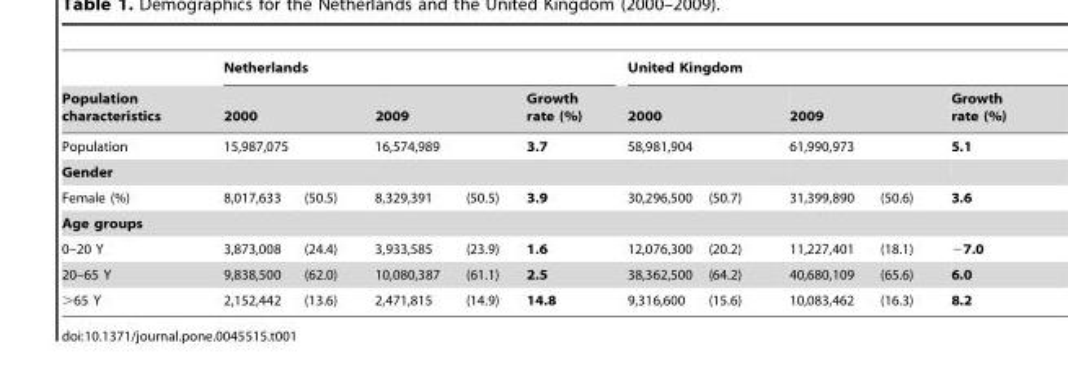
<table><thead><tr><td rowspan="5">Population characteristics Population Gender Female (%)</td><td colspan="5">Netherlands</td><td colspan="5">United Kingdom</td></tr><tr><td rowspan="3" colspan="2">2000 15,987,075</td><td rowspan="3" colspan="2">2009 16,574,989</td><td rowspan="4">Growth rate (%) 3.7 3.9</td><td rowspan="3" colspan="2">2000 58,981,904</td><td rowspan="3" colspan="2">2009 61,990,973</td><td rowspan="4">Growth rate (%) 5.1 3.6</td></tr><tr></tr><tr></tr><tr><td>8,017,633</td><td>(50.5)</td><td>8,329,391</td><td>(50.5)</td><td>30,296,500</td><td>(50.7)</td><td>31,399,890</td><td>(50.6)</td></tr></thead><tbody><tr><td colspan="11">Age groups</td></tr><tr><td>0–20 Y</td><td>3,873,008</td><td>(24.4)</td><td>3,933,585</td><td>(23.9)</td><td>1.6</td><td>12,076,300</td><td>(20.2)</td><td>11,227,401</td><td>(18.1)</td><td>−7.0</td></tr><tr><td>20–65 Y</td><td>9,838,500</td><td>(62.0)</td><td>10,080,387</td><td>(61.1)</td><td>2.5</td><td>38,362,500</td><td>(64.2)</td><td>40,680,109</td><td>(65.6)</td><td>6.0</td></tr><tr><td>&gt;65 Y</td><td>2,152,442</td><td>(13.6)</td><td>2,471,815</td><td>(14.9)</td><td>14.8</td><td>9,316,600</td><td>(15.6)</td><td>10,083,462</td><td>(16.3)</td><td>8.2</td></tr></tbody></table>